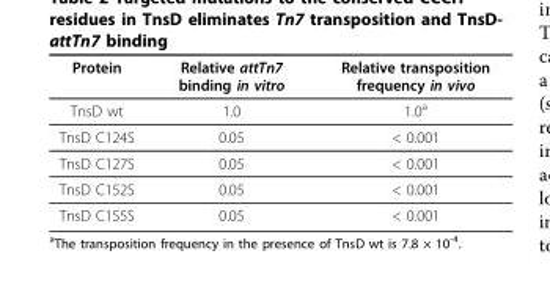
<table><thead><tr><td>Protein</td><td>Relative attTn7 binding in vitro</td><td>Relative transposition frequency in vivo</td></tr></thead><tbody><tr><td>TnsD wt</td><td>1.0</td><td>1.0<sup>a</sup></td></tr><tr><td>TnsD C124S</td><td>0.05</td><td>&lt; 0.001</td></tr><tr><td>TnsD C127S</td><td>0.05</td><td>&lt; 0.001</td></tr><tr><td>TnsD C152S</td><td>0.05</td><td>&lt; 0.001</td></tr><tr><td>TnsD C155S</td><td>0.05</td><td>&lt; 0.001</td></tr></tbody></table>